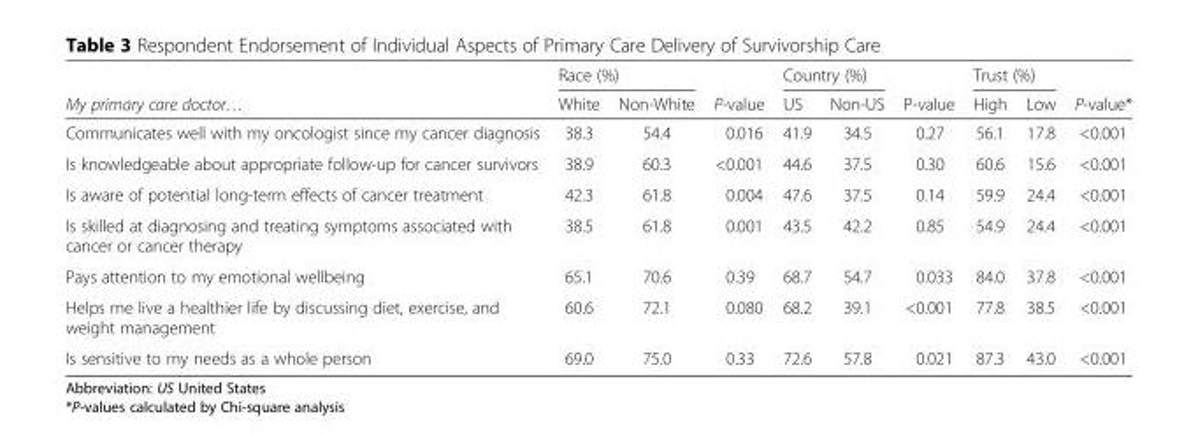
<table><thead><tr><td rowspan="2">My primary care doctor…</td><td colspan="2">Race (%)</td><td rowspan="2">P-value</td><td colspan="2">Country (%)</td><td rowspan="2">P-value</td><td colspan="2">Trust (%)</td><td rowspan="2">P-value*</td></tr><tr><td>White</td><td>Non-White</td><td>US</td><td>Non-US</td><td>High</td><td>Low</td></tr></thead><tbody><tr><td>Communicates well with my oncologist since my cancer diagnosis</td><td>38.3</td><td>54.4</td><td>0.016</td><td>41.9</td><td>34.5</td><td>0.27</td><td>56.1</td><td>17.8</td><td>&lt;0.001</td></tr><tr><td>Is knowledgeable about appropriate follow-up for cancer survivors</td><td>38.9</td><td>60.3</td><td>&lt;0.001</td><td>44.6</td><td>37.5</td><td>0.30</td><td>60.6</td><td>15.6</td><td>&lt;0.001</td></tr><tr><td>Is aware of potential long-term effects of cancer treatment</td><td>42.3</td><td>61.8</td><td>0.004</td><td>47.6</td><td>37.5</td><td>0.14</td><td>59.9</td><td>24.4</td><td>&lt;0.001</td></tr><tr><td>Is skilled at diagnosing and treating symptoms associated with cancer or cancer therapy</td><td>38.5</td><td>61.8</td><td>0.001</td><td>43.5</td><td>42.2</td><td>0.85</td><td>54.9</td><td>24.4</td><td>&lt;0.001</td></tr><tr><td>Pays attention to my emotional wellbeing</td><td>65.1</td><td>70.6</td><td>0.39</td><td>68.7</td><td>54.7</td><td>0.033</td><td>84.0</td><td>37.8</td><td>&lt;0.001</td></tr><tr><td>Helps me live a healthier life by discussing diet, exercise, and weight management</td><td>60.6</td><td>72.1</td><td>0.080</td><td>68.2</td><td>39.1</td><td>&lt;0.001</td><td>77.8</td><td>38.5</td><td>&lt;0.001</td></tr><tr><td>Is sensitive to my needs as a whole person</td><td>69.0</td><td>75.0</td><td>0.33</td><td>72.6</td><td>57.8</td><td>0.021</td><td>87.3</td><td>43.0</td><td>&lt;0.001</td></tr></tbody></table>